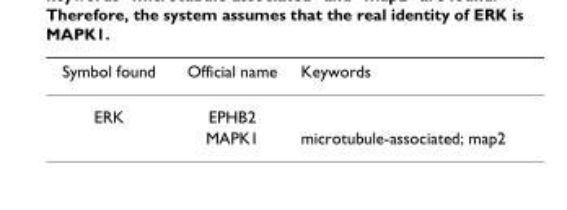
<table><thead><tr><td>Symbol found</td><td>Official name</td><td>Keywords</td></tr></thead><tbody><tr><td rowspan="2">ERK</td><td>EPHB2</td><td></td></tr><tr><td>MAPK1</td><td>microtubule-associated; map2</td></tr></tbody></table>